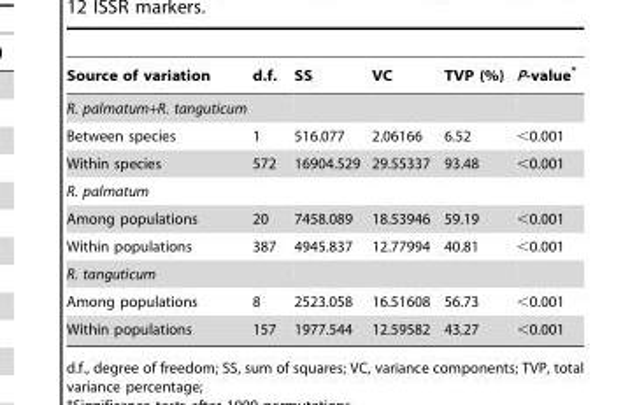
<table><thead><tr><td>Source of variation</td><td>d.f.</td><td>SS</td><td>VC</td><td>TVP (%)</td><td>P-value*</td></tr></thead><tbody><tr><td colspan="6">R. palmatum+R. tanguticum</td></tr><tr><td>Between species</td><td>1</td><td>516.077</td><td>2.06166</td><td>6.52</td><td>&lt;0.001</td></tr><tr><td>Within species</td><td>572</td><td>16904.529</td><td>29.55337</td><td>93.48</td><td>&lt;0.001</td></tr><tr><td colspan="6">R. palmatum</td></tr><tr><td>Among populations</td><td>20</td><td>7458.089</td><td>18.53946</td><td>59.19</td><td>&lt;0.001</td></tr><tr><td>Within populations</td><td>387</td><td>4945.837</td><td>12.77994</td><td>40.81</td><td>&lt;0.001</td></tr><tr><td colspan="6">R. tanguticum</td></tr><tr><td>Among populations</td><td>8</td><td>2523.058</td><td>16.51608</td><td>56.73</td><td>&lt;0.001</td></tr><tr><td>Within populations</td><td>157</td><td>1977.544</td><td>12.59582</td><td>43.27</td><td>&lt;0.001</td></tr></tbody></table>